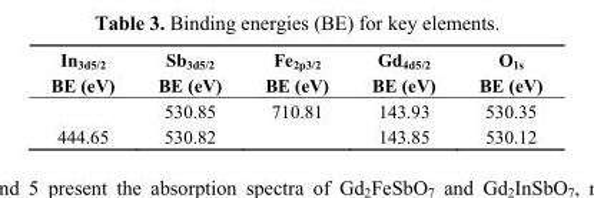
<table><thead><tr><td>In<sub>3d5/2</sub> BE (eV)</td><td>Sb<sub>3d5/2</sub> BE (eV)</td><td>Fe<sub>2p3/2</sub> BE (eV)</td><td>Gd<sub>4d5/2</sub> BE (eV)</td><td>O<sub>1s</sub> BE (eV)</td></tr></thead><tbody><tr><td></td><td>530.85</td><td>710.81</td><td>143.93</td><td>530.35</td></tr><tr><td>444.65</td><td>530.82</td><td></td><td>143.85</td><td>530.12</td></tr></tbody></table>